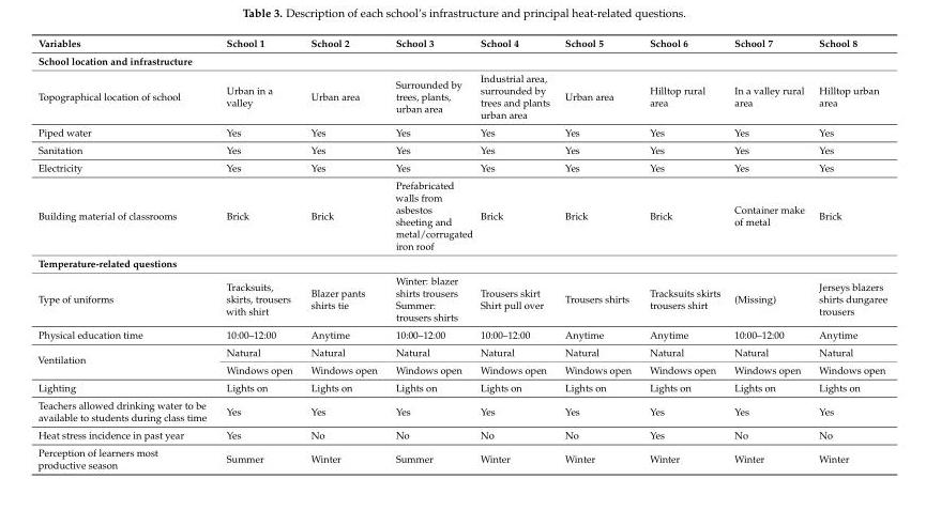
<table><thead><tr><td>Variables</td><td>School 1</td><td>School 2</td><td>School 3</td><td>School 4</td><td>School 5</td><td>School 6</td><td>School 7</td><td>School 8</td></tr></thead><tbody><tr><td colspan="9">School location and infrastructure</td></tr><tr><td>Topographical location of school</td><td>Urban in a valley</td><td>Urban area</td><td>Surrounded by trees, plants, urban area</td><td>Industrial area, surrounded by trees and plants urban area</td><td>Urban area</td><td>Hilltop rural area</td><td>In a valley rural area</td><td>Hilltop urban area</td></tr><tr><td>Piped water</td><td>Yes</td><td>Yes</td><td>Yes</td><td>Yes</td><td>Yes</td><td>Yes</td><td>Yes</td><td>Yes</td></tr><tr><td>Sanitation</td><td>Yes</td><td>Yes</td><td>Yes</td><td>Yes</td><td>Yes</td><td>Yes</td><td>Yes</td><td>Yes</td></tr><tr><td>Electricity</td><td>Yes</td><td>Yes</td><td>Yes</td><td>Yes</td><td>Yes</td><td>Yes</td><td>Yes</td><td>Yes</td></tr><tr><td>Building material of classrooms</td><td>Brick</td><td>Brick</td><td>Prefabricated walls from asbestos sheeting and metal/corrugated iron roof</td><td>Brick</td><td>Brick</td><td>Brick</td><td>Container make of metal</td><td>Brick</td></tr><tr><td colspan="9">Temperature-related questions</td></tr><tr><td>Type of uniforms</td><td>Tracksuits, skirts, trousers with shirt</td><td>Blazer pants shirts tie</td><td>Winter: blazer shirts trousers Summer: trousers shirts</td><td>Trousers skirt Shirt pull over</td><td>Trousers shirts</td><td>Tracksuits skirts trousers shirt</td><td>(Missing)</td><td>Jerseys blazers shirts dungaree trousers</td></tr><tr><td>Physical education time</td><td>10:00–12:00</td><td>Anytime</td><td>10:00–12:00</td><td>10:00–12:00</td><td>Anytime</td><td>Anytime</td><td>10:00–12:00</td><td>Anytime</td></tr><tr><td rowspan="2">Ventilation</td><td>Natural</td><td>Natural</td><td>Natural</td><td>Natural</td><td>Natural</td><td>Natural</td><td>Natural</td><td>Natural</td></tr><tr><td>Windows open</td><td>Windows open</td><td>Windows open</td><td>Windows open</td><td>Windows open</td><td>Windows open</td><td>Windows open</td><td>Windows open</td></tr><tr><td>Lighting</td><td>Lights on</td><td>Lights on</td><td>Lights on</td><td>Lights on</td><td>Lights on</td><td>Lights on</td><td>Lights on</td><td>Lights on</td></tr><tr><td>Teachers allowed drinking water to be available to students during class time</td><td>Yes</td><td>Yes</td><td>Yes</td><td>Yes</td><td>Yes</td><td>Yes</td><td>Yes</td><td>Yes</td></tr><tr><td>Heat stress incidence in past year</td><td>Yes</td><td>No</td><td>No</td><td>No</td><td>No</td><td>Yes</td><td>No</td><td>No</td></tr><tr><td>Perception of learners most productive season</td><td>Summer</td><td>Winter</td><td>Summer</td><td>Winter</td><td>Winter</td><td>Winter</td><td>Winter</td><td>Winter</td></tr></tbody></table>